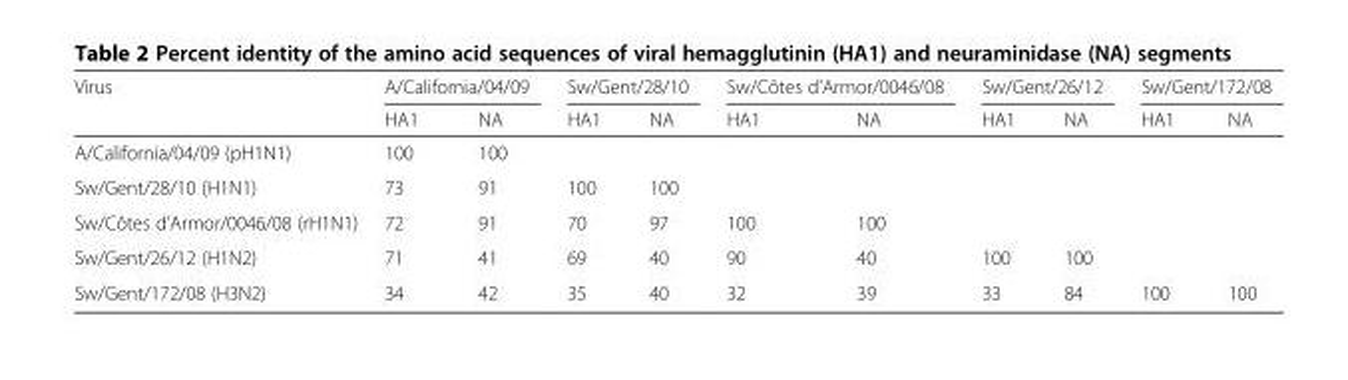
<table><thead><tr><td rowspan="2">Virus</td><td colspan="2">A/California/04/09</td><td colspan="2">Sw/Gent/28/10</td><td colspan="2">Sw/Côtes d’Armor/0046/08</td><td colspan="2">Sw/Gent/26/12</td><td colspan="2">Sw/Gent/172/08</td></tr><tr><td>HA1</td><td>NA</td><td>HA1</td><td>NA</td><td>HA1</td><td>NA</td><td>HA1</td><td>NA</td><td>HA1</td><td>NA</td></tr></thead><tbody><tr><td>A/California/04/09 (pH1N1)</td><td>100</td><td>100</td><td></td><td></td><td></td><td></td><td></td><td></td><td></td><td></td></tr><tr><td>Sw/Gent/28/10 (H1N1)</td><td>73</td><td>91</td><td>100</td><td>100</td><td></td><td></td><td></td><td></td><td></td><td></td></tr><tr><td>Sw/Côtes d’Armor/0046/08 (rH1N1)</td><td>72</td><td>91</td><td>70</td><td>97</td><td>100</td><td>100</td><td></td><td></td><td></td><td></td></tr><tr><td>Sw/Gent/26/12 (H1N2)</td><td>71</td><td>41</td><td>69</td><td>40</td><td>90</td><td>40</td><td>100</td><td>100</td><td></td><td></td></tr><tr><td>Sw/Gent/172/08 (H3N2)</td><td>34</td><td>42</td><td>35</td><td>40</td><td>32</td><td>39</td><td>33</td><td>84</td><td>100</td><td>100</td></tr></tbody></table>